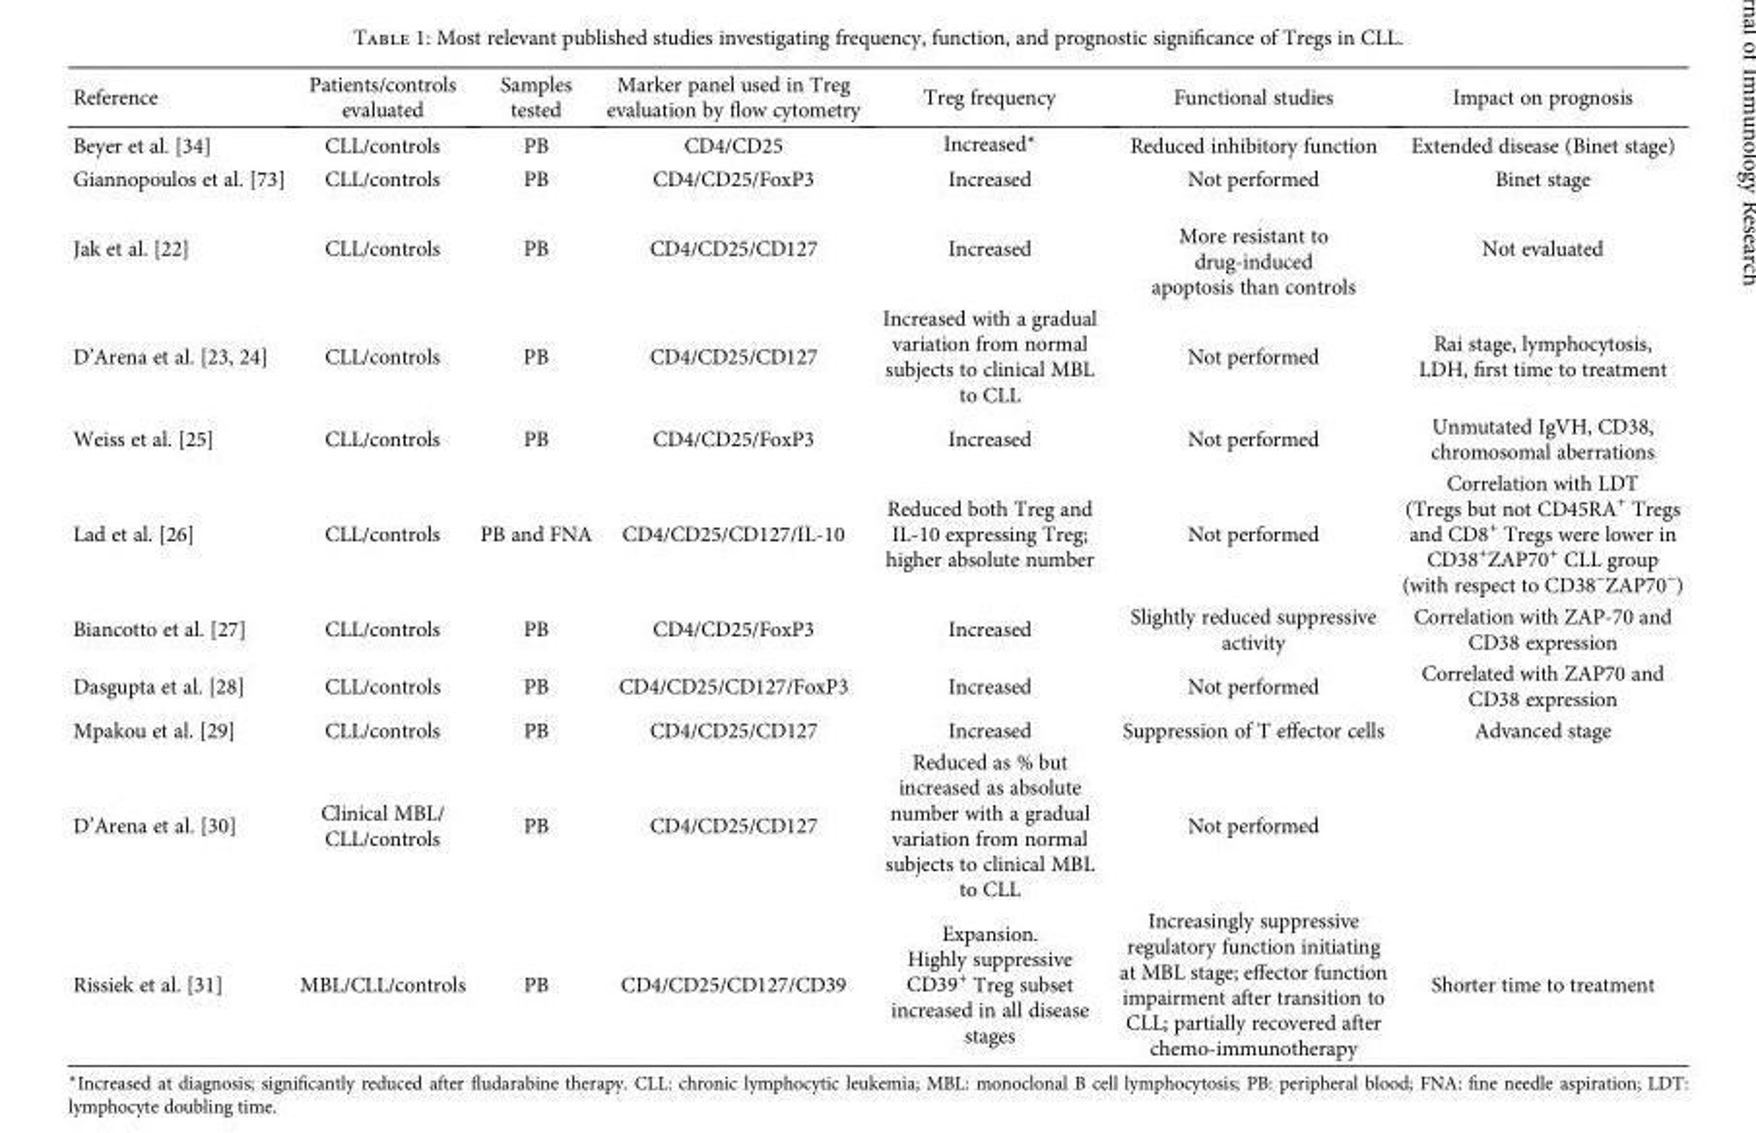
<table><thead><tr><td>Reference</td><td>Patients/controls evaluated</td><td>Samples tested</td><td>Marker panel used in Treg evaluation by flow cytometry</td><td>Treg frequency</td><td>Functional studies</td><td>Impact on prognosis</td></tr></thead><tbody><tr><td>Beyer et al. [34]</td><td>CLL/controls</td><td>PB</td><td>CD4/CD25</td><td>Increased∗</td><td>Reduced inhibitory function</td><td>Extended disease (Binet stage)</td></tr><tr><td>Giannopoulos et al. [73]</td><td>CLL/controls</td><td>PB</td><td>CD4/CD25/FoxP3</td><td>Increased</td><td>Not performed</td><td>Binet stage</td></tr><tr><td>Jak et al. [22]</td><td>CLL/controls</td><td>PB</td><td>CD4/CD25/CD127</td><td>Increased</td><td>More resistant to drug-induced apoptosis than controls</td><td>Not evaluated</td></tr><tr><td>D’Arena et al. [23, 24]</td><td>CLL/controls</td><td>PB</td><td>CD4/CD25/CD127</td><td>Increased with a gradual variation from normal subjects to clinical MBL to CLL</td><td>Not performed</td><td>Rai stage, lymphocytosis, LDH, first time to treatment</td></tr><tr><td>Weiss et al. [25]</td><td>CLL/controls</td><td>PB</td><td>CD4/CD25/FoxP3</td><td>Increased</td><td>Not performed</td><td>Unmutated IgVH, CD38, chromosomal aberrations</td></tr><tr><td>Lad et al. [26]</td><td>CLL/controls</td><td>PB and FNA</td><td>CD4/CD25/CD127/IL-10</td><td>Reduced both Treg and IL-10 expressing Treg; higher absolute number</td><td>Not performed</td><td>Correlation with LDT (Tregs but not CD45RA<sup>+</sup> Tregs and CD8<sup>+</sup> Tregs were lower in CD38<sup>+</sup>ZAP70<sup>+</sup> CLL group (with respect to CD38<sup>−</sup>ZAP70<sup>−</sup>)</td></tr><tr><td>Biancotto et al. [27]</td><td>CLL/controls</td><td>PB</td><td>CD4/CD25/FoxP3</td><td>Increased</td><td>Slightly reduced suppressive activity</td><td>Correlation with ZAP-70 and CD38 expression</td></tr><tr><td>Dasgupta et al. [28]</td><td>CLL/controls</td><td>PB</td><td>CD4/CD25/CD127/FoxP3</td><td>Increased</td><td>Not performed</td><td>Correlated with ZAP70 and CD38 expression</td></tr><tr><td>Mpakou et al. [29]</td><td>CLL/controls</td><td>PB</td><td>CD4/CD25/CD127</td><td>Increased</td><td>Suppression of T effector cells</td><td>Advanced stage</td></tr><tr><td>D’Arena et al. [30]</td><td>Clinical MBL/ CLL/controls</td><td>PB</td><td>CD4/CD25/CD127</td><td>Reduced as % but increased as absolute number with a gradual variation from normal subjects to clinical MBL to CLL</td><td>Not performed</td><td></td></tr><tr><td>Rissiek et al. [31]</td><td>MBL/CLL/controls</td><td>PB</td><td>CD4/CD25/CD127/CD39</td><td>Expansion. Highly suppressive CD39<sup>+</sup> Treg subset increased in all disease stages</td><td>Increasingly suppressive regulatory function initiating at MBL stage; effector function impairment after transition to CLL; partially recovered after chemo-immunotherapy</td><td>Shorter time to treatment</td></tr></tbody></table>